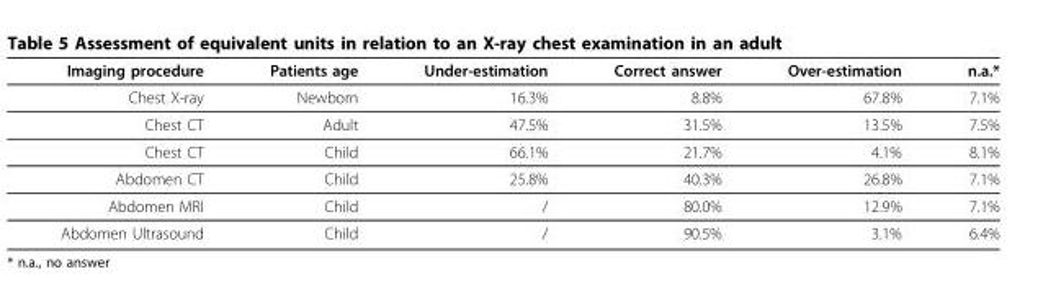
<table><thead><tr><td>Imaging procedure</td><td>Patients age</td><td>Under-estimation</td><td>Correct answer</td><td>Over-estimation</td><td>n.a.*</td></tr></thead><tbody><tr><td>Chest X-ray</td><td>Newborn</td><td>16.3%</td><td>8.8%</td><td>67.8%</td><td>7.1%</td></tr><tr><td>Chest CT</td><td>Adult</td><td>47.5%</td><td>31.5%</td><td>13.5%</td><td>7.5%</td></tr><tr><td>Chest CT</td><td>Child</td><td>66.1%</td><td>21.7%</td><td>4.1%</td><td>8.1%</td></tr><tr><td>Abdomen CT</td><td>Child</td><td>25.8%</td><td>40.3%</td><td>26.8%</td><td>7.1%</td></tr><tr><td>Abdomen MRI</td><td>Child</td><td>/</td><td>80.0%</td><td>12.9%</td><td>7.1%</td></tr><tr><td>Abdomen Ultrasound</td><td>Child</td><td>/</td><td>90.5%</td><td>3.1%</td><td>6.4%</td></tr></tbody></table>